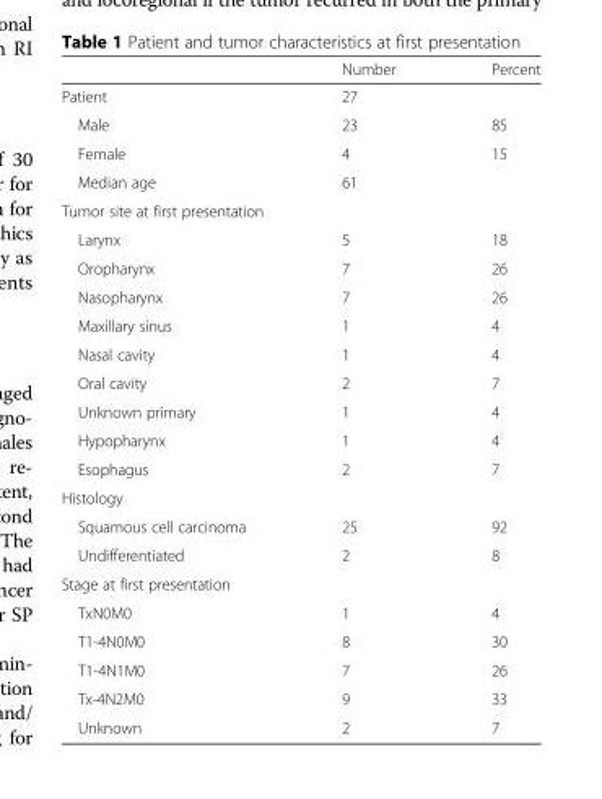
<table><thead><tr><td></td><td>Number</td><td>Percent</td></tr></thead><tbody><tr><td>Patient</td><td>27</td><td></td></tr><tr><td>Male</td><td>23</td><td>85</td></tr><tr><td>Female</td><td>4</td><td>15</td></tr><tr><td>Median age</td><td>61</td><td></td></tr><tr><td colspan="3">Tumor site at first presentation</td></tr><tr><td>Larynx</td><td>5</td><td>18</td></tr><tr><td>Oropharynx</td><td>7</td><td>26</td></tr><tr><td>Nasopharynx</td><td>7</td><td>26</td></tr><tr><td>Maxillary sinus</td><td>1</td><td>4</td></tr><tr><td>Nasal cavity</td><td>1</td><td>4</td></tr><tr><td>Oral cavity</td><td>2</td><td>7</td></tr><tr><td>Unknown primary</td><td>1</td><td>4</td></tr><tr><td>Hypopharynx</td><td>1</td><td>4</td></tr><tr><td>Esophagus</td><td>2</td><td>7</td></tr><tr><td colspan="3">Histology</td></tr><tr><td>Squamous cell carcinoma</td><td>25</td><td>92</td></tr><tr><td>Undifferentiated</td><td>2</td><td>8</td></tr><tr><td colspan="3">Stage at first presentation</td></tr><tr><td>TxN0M0</td><td>1</td><td>4</td></tr><tr><td>T1-4N0M0</td><td>8</td><td>30</td></tr><tr><td>T1-4N1M0</td><td>7</td><td>26</td></tr><tr><td>Tx-4N2M0</td><td>9</td><td>33</td></tr><tr><td>Unknown</td><td>2</td><td>7</td></tr></tbody></table>